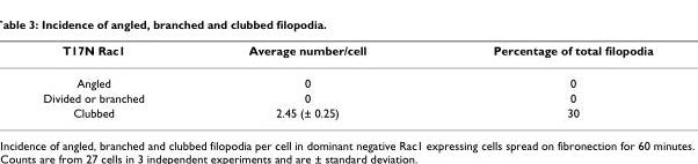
<table><thead><tr><td>T17N Rac1</td><td>Average number/cell</td><td>Percentage of total filopodia</td></tr></thead><tbody><tr><td>Angled</td><td>0</td><td>0</td></tr><tr><td>Divided or branched</td><td>0</td><td>0</td></tr><tr><td>Clubbed</td><td>2.45 (± 0.25)</td><td>30</td></tr></tbody></table>